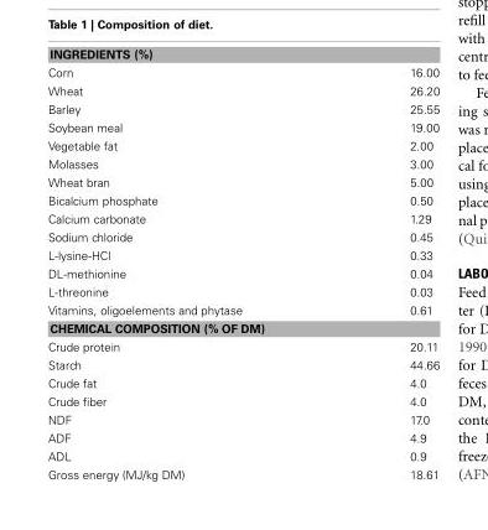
<table><tbody><tr><td colspan="2">INGREDIENTS (%)</td></tr><tr><td>Corn</td><td>16.00</td></tr><tr><td>Wheat</td><td>26.20</td></tr><tr><td>Barley</td><td>25.55</td></tr><tr><td>Soybean meal</td><td>19.00</td></tr><tr><td>Vegetable fat</td><td>2.00</td></tr><tr><td>Molasses</td><td>3.00</td></tr><tr><td>Wheat bran</td><td>5.00</td></tr><tr><td>Bicalcium phosphate</td><td>0.50</td></tr><tr><td>Calcium carbonate</td><td>1.29</td></tr><tr><td>Sodium chloride</td><td>0.45</td></tr><tr><td>L-lysine-HCl</td><td>0.33</td></tr><tr><td>DL-methionine</td><td>0.04</td></tr><tr><td>L-threonine</td><td>0.03</td></tr><tr><td>Vitamins, oligoelements and phytase</td><td>0.61</td></tr><tr><td colspan="2">CHEMICAL COMPOSITION (% OF DM)</td></tr><tr><td>Crude protein</td><td>20.11</td></tr><tr><td>Starch</td><td>44.66</td></tr><tr><td>Crude fat</td><td>4.0</td></tr><tr><td>Crude fiber</td><td>4.0</td></tr><tr><td>NDF</td><td>17.0</td></tr><tr><td>ADF</td><td>4.9</td></tr><tr><td>ADL</td><td>0.9</td></tr><tr><td>Gross energy (MJ/kg DM)</td><td>18.61</td></tr></tbody></table>